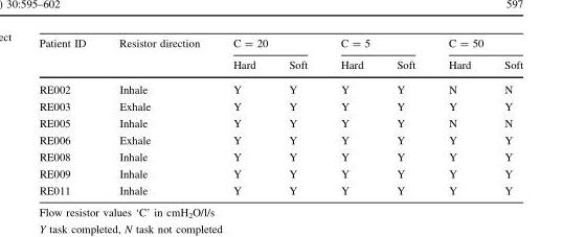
<table><thead><tr><td rowspan="2">Patient ID</td><td rowspan="2">Resistor direction</td><td colspan="2">C = 20</td><td colspan="2">C = 5</td><td colspan="2">C = 50</td></tr><tr><td>Hard</td><td>Soft</td><td>Hard</td><td>Soft</td><td>Hard</td><td>Soft</td></tr></thead><tbody><tr><td>RE002</td><td>Inhale</td><td>Y</td><td>Y</td><td>Y</td><td>Y</td><td>N</td><td>N</td></tr><tr><td>RE003</td><td>Exhale</td><td>Y</td><td>Y</td><td>Y</td><td>Y</td><td>Y</td><td>Y</td></tr><tr><td>RE005</td><td>Inhale</td><td>Y</td><td>Y</td><td>Y</td><td>Y</td><td>N</td><td>N</td></tr><tr><td>RE006</td><td>Exhale</td><td>Y</td><td>Y</td><td>Y</td><td>Y</td><td>Y</td><td>Y</td></tr><tr><td>RE008</td><td>Inhale</td><td>Y</td><td>Y</td><td>Y</td><td>Y</td><td>Y</td><td>Y</td></tr><tr><td>RE009</td><td>Inhale</td><td>Y</td><td>Y</td><td>Y</td><td>Y</td><td>Y</td><td>Y</td></tr><tr><td>RE011</td><td>Inhale</td><td>Y</td><td>Y</td><td>Y</td><td>Y</td><td>Y</td><td>Y</td></tr></tbody></table>